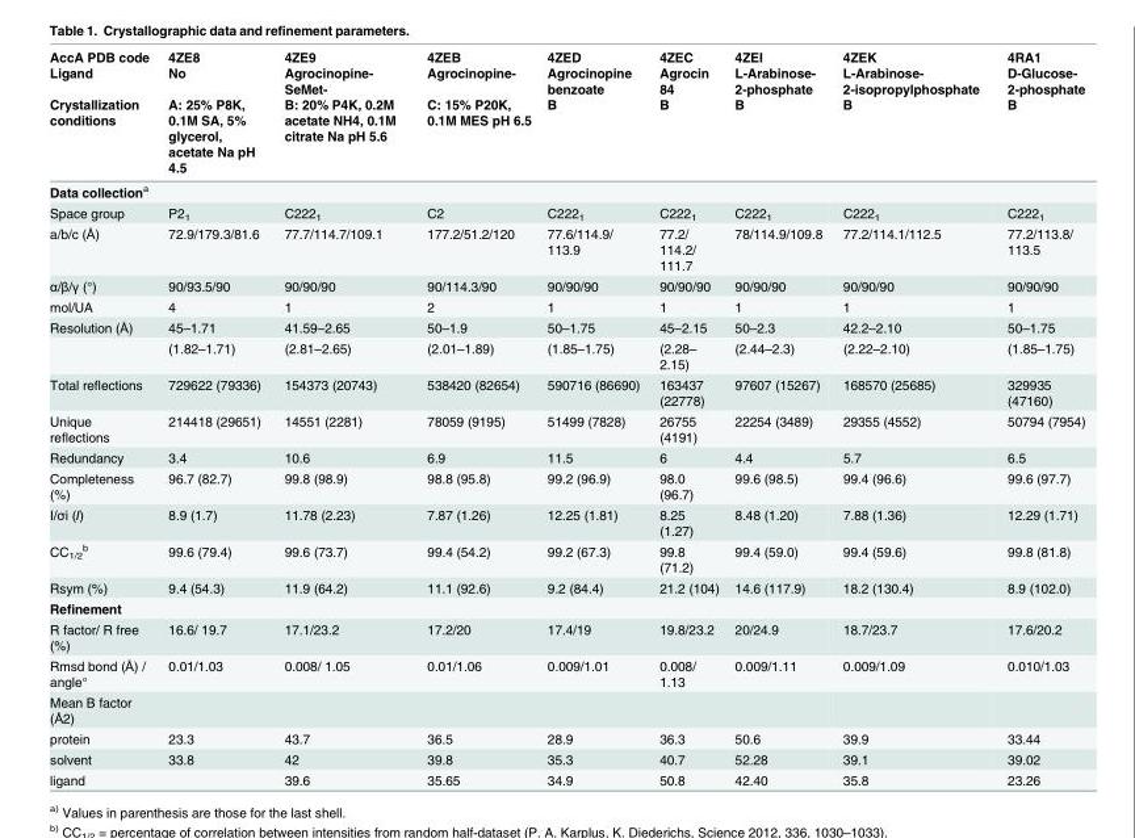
<table><thead><tr><td rowspan="3">AccA PDB code Ligand Crystallization conditions</td><td rowspan="3">4ZE8 No A: 25% P8K, 0.1M SA, 5% glycerol, acetate Na pH 4.5</td><td rowspan="3">4ZE9 Agrocinopine- SeMet- B: 20% P4K, 0.2M acetate NH4, 0.1M citrate Na pH 5.6</td><td rowspan="3">4ZEB Agrocinopine- C: 15% P20K, 0.1M MES pH 6.5</td><td rowspan="3">4ZED Agrocinopine benzoate B</td><td rowspan="3">4ZEC Agrocin 84 B</td><td rowspan="3">4ZEI L-Arabinose- 2-phosphate B</td><td rowspan="3">4ZEK L-Arabinose- 2-isopropylphosphate B</td><td rowspan="3">4RA1 D-Glucose- 2-phosphate B</td></tr><tr></tr><tr></tr></thead><tbody><tr><td colspan="9">Data collection<sup>a</sup></td></tr><tr><td>Space group</td><td>P2<sub>1</sub></td><td>C222<sub>1</sub></td><td>C2</td><td>C222<sub>1</sub></td><td>C222<sub>1</sub></td><td>C222<sub>1</sub></td><td>C222<sub>1</sub></td><td>C222<sub>1</sub></td></tr><tr><td>a/b/c (Å)</td><td>72.9/179.3/81.6</td><td>77.7/114.7/109.1</td><td>177.2/51.2/120</td><td>77.6/114.9/ 113.9</td><td>77.2/ 114.2/ 111.7</td><td>78/114.9/109.8</td><td>77.2/114.1/112.5</td><td>77.2/113.8/ 113.5</td></tr><tr><td>α/β/γ (°)</td><td>90/93.5/90</td><td>90/90/90</td><td>90/114.3/90</td><td>90/90/90</td><td>90/90/90</td><td>90/90/90</td><td>90/90/90</td><td>90/90/90</td></tr><tr><td>mol/UA</td><td>4</td><td>1</td><td>2</td><td>1</td><td>1</td><td>1</td><td>1</td><td>1</td></tr><tr><td rowspan="2">Resolution (Å)</td><td>45–1.71</td><td>41.59–2.65</td><td>50–1.9</td><td>50–1.75</td><td>45–2.15</td><td>50–2.3</td><td>42.2–2.10</td><td>50–1.75</td></tr><tr><td>(1.82–1.71)</td><td>(2.81–2.65)</td><td>(2.01–1.89)</td><td>(1.85–1.75)</td><td>(2.28– 2.15)</td><td>(2.44–2.3)</td><td>(2.22–2.10)</td><td>(1.85–1.75)</td></tr><tr><td>Total reflections</td><td>729622 (79336)</td><td>154373 (20743)</td><td>538420 (82654)</td><td>590716 (86690)</td><td>163437 (22778)</td><td>97607 (15267)</td><td>168570 (25685)</td><td>329935 (47160)</td></tr><tr><td>Unique reflections</td><td>214418 (29651)</td><td>14551 (2281)</td><td>78059 (9195)</td><td>51499 (7828)</td><td>26755 (4191)</td><td>22254 (3489)</td><td>29355 (4552)</td><td>50794 (7954)</td></tr><tr><td>Redundancy</td><td>3.4</td><td>10.6</td><td>6.9</td><td>11.5</td><td>6</td><td>4.4</td><td>5.7</td><td>6.5</td></tr><tr><td>Completeness (%)</td><td>96.7 (82.7)</td><td>99.8 (98.9)</td><td>98.8 (95.8)</td><td>99.2 (96.9)</td><td>98.0 (96.7)</td><td>99.6 (98.5)</td><td>99.4 (96.6)</td><td>99.6 (97.7)</td></tr><tr><td>I/σi (I)</td><td>8.9 (1.7)</td><td>11.78 (2.23)</td><td>7.87 (1.26)</td><td>12.25 (1.81)</td><td>8.25 (1.27)</td><td>8.48 (1.20)</td><td>7.88 (1.36)</td><td>12.29 (1.71)</td></tr><tr><td>CC<sub>1/2</sub> <sup>b</sup></td><td>99.6 (79.4)</td><td>99.6 (73.7)</td><td>99.4 (54.2)</td><td>99.2 (67.3)</td><td>99.8 (71.2)</td><td>99.4 (59.0)</td><td>99.4 (59.6)</td><td>99.8 (81.8)</td></tr><tr><td>Rsym (%)</td><td>9.4 (54.3)</td><td>11.9 (64.2)</td><td>11.1 (92.6)</td><td>9.2 (84.4)</td><td>21.2 (104)</td><td>14.6 (117.9)</td><td>18.2 (130.4)</td><td>8.9 (102.0)</td></tr><tr><td colspan="9">Refinement</td></tr><tr><td>R factor/ R free (%)</td><td>16.6/ 19.7</td><td>17.1/23.2</td><td>17.2/20</td><td>17.4/19</td><td>19.8/23.2</td><td>20/24.9</td><td>18.7/23.7</td><td>17.6/20.2</td></tr><tr><td>Rmsd bond (Å) / angle°</td><td>0.01/1.03</td><td>0.008/ 1.05</td><td>0.01/1.06</td><td>0.009/1.01</td><td>0.008/ 1.13</td><td>0.009/1.11</td><td>0.009/1.09</td><td>0.010/1.03</td></tr><tr><td colspan="9">Mean B factor (Å2)</td></tr><tr><td>protein</td><td>23.3</td><td>43.7</td><td>36.5</td><td>28.9</td><td>36.3</td><td>50.6</td><td>39.9</td><td>33.44</td></tr><tr><td>solvent</td><td>33.8</td><td>42</td><td>39.8</td><td>35.3</td><td>40.7</td><td>52.28</td><td>39.1</td><td>39.02</td></tr><tr><td>ligand</td><td></td><td>39.6</td><td>35.65</td><td>34.9</td><td>50.8</td><td>42.40</td><td>35.8</td><td>23.26</td></tr></tbody></table>